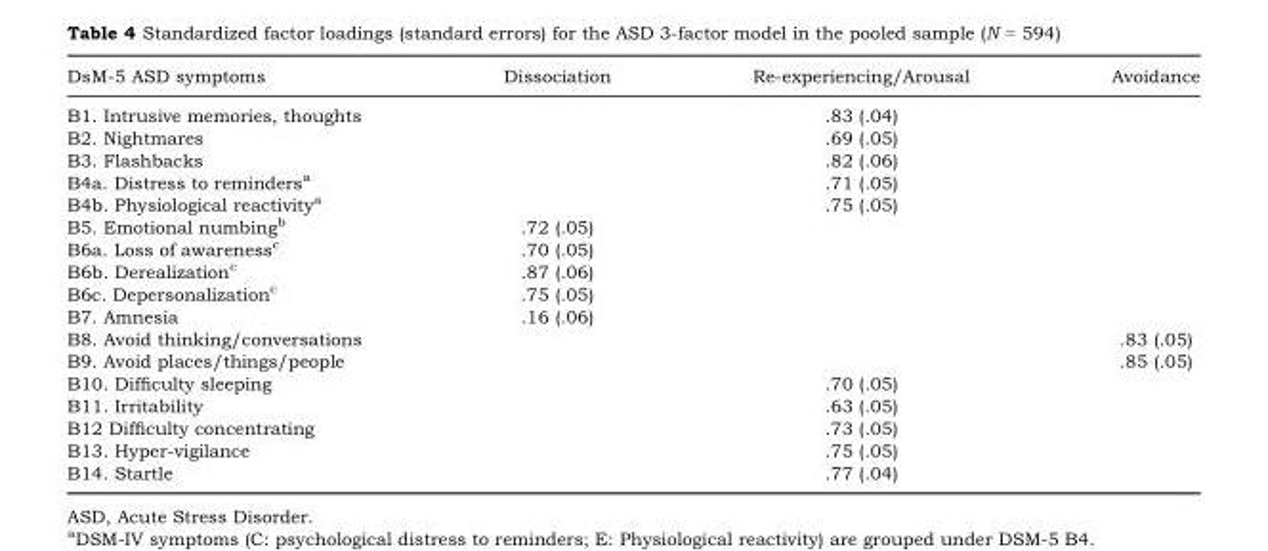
<table><thead><tr><td>DsM-5 ASD symptoms</td><td>Dissociation</td><td>Re-experiencing/Arousal</td><td>Avoidance</td></tr></thead><tbody><tr><td>B1. Intrusive memories, thoughts</td><td></td><td>.83 (.04)</td><td></td></tr><tr><td>B2. Nightmares</td><td></td><td>.69 (.05)</td><td></td></tr><tr><td>B3. Flashbacks</td><td></td><td>.82 (.06)</td><td></td></tr><tr><td>B4a. Distress to reminders<sup>a</sup></td><td></td><td>.71 (.05)</td><td></td></tr><tr><td>B4b. Physiological reactivity<sup>a</sup></td><td></td><td>.75 (.05)</td><td></td></tr><tr><td>B5. Emotional numbing<sup>b</sup></td><td>.72 (.05)</td><td></td><td></td></tr><tr><td>B6a. Loss of awareness<sup>c</sup></td><td>.70 (.05)</td><td></td><td></td></tr><tr><td>B6b. Derealization<sup>c</sup></td><td>.87 (.06)</td><td></td><td></td></tr><tr><td>B6c. Depersonalization<sup>c</sup></td><td>.75 (.05)</td><td></td><td></td></tr><tr><td>B7. Amnesia</td><td>.16 (.06)</td><td></td><td></td></tr><tr><td>B8. Avoid thinking/conversations</td><td></td><td></td><td>.83 (.05)</td></tr><tr><td>B9. Avoid places/things/people</td><td></td><td></td><td>.85 (.05)</td></tr><tr><td>B10. Difficulty sleeping</td><td></td><td>.70 (.05)</td><td></td></tr><tr><td>B11. Irritability</td><td></td><td>.63 (.05)</td><td></td></tr><tr><td>B12 Difficulty concentrating</td><td></td><td>.73 (.05)</td><td></td></tr><tr><td>B13. Hyper-vigilance</td><td></td><td>.75 (.05)</td><td></td></tr><tr><td>B14. Startle</td><td></td><td>.77 (.04)</td><td></td></tr></tbody></table>